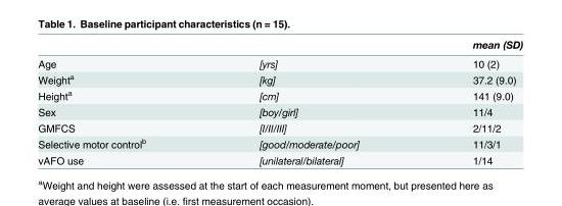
<table><thead><tr><td></td><td></td><td>mean (SD)</td></tr></thead><tbody><tr><td>Age</td><td>[yrs]</td><td>10 (2)</td></tr><tr><td>Weight<sup>a</sup></td><td>[kg]</td><td>37.2 (9.0)</td></tr><tr><td>Height<sup>a</sup></td><td>[cm]</td><td>141 (9.0)</td></tr><tr><td>Sex</td><td>[boy/girl]</td><td>11/4</td></tr><tr><td>GMFCS</td><td>[I/II/III]</td><td>2/11/2</td></tr><tr><td>Selective motor control<sup>b</sup></td><td>[good/moderate/poor]</td><td>11/3/1</td></tr><tr><td>vAFO use</td><td>[unilateral/bilateral]</td><td>1/14</td></tr></tbody></table>